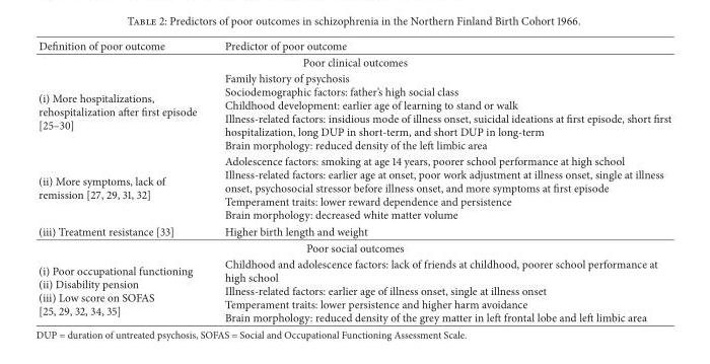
<table><thead><tr><td>Definition of poor outcome</td><td>Predictor of poor outcome</td></tr></thead><tbody><tr><td colspan="2">Poor clinical outcomes</td></tr><tr><td>(i) More hospitalizations, rehospitalization after first episode [25–30]</td><td>Family history of psychosis Sociodemographic factors: father’s high social class Childhood development: earlier age of learning to stand or walk Illness-related factors: insidious mode of illness onset, suicidal ideations at first episode, short first hospitalization, long DUP in short-term, and short DUP in long-term Brain morphology: reduced density of the left limbic area</td></tr><tr><td>(ii) More symptoms, lack of remission [27, 29, 31, 32]</td><td>Adolescence factors: smoking at age 14 years, poorer school performance at high school Illness-related factors: earlier age at onset, poor work adjustment at illness onset, single at illness onset, psychosocial stressor before illness onset, and more symptoms at first episode Temperament traits: lower reward dependence and persistence Brain morphology: decreased white matter volume</td></tr><tr><td>(iii) Treatment resistance [33]</td><td>Higher birth length and weight</td></tr><tr><td colspan="2">Poor social outcomes</td></tr><tr><td>(i) Poor occupational functioning (ii) Disability pension (iii) Low score on SOFAS [25, 29, 32, 34, 35]</td><td>Childhood and adolescence factors: lack of friends at childhood, poorer school performance at high school Illness-related factors: earlier age of illness onset, single at illness onset Temperament traits: lower persistence and higher harm avoidance Brain morphology: reduced density of the grey matter in left frontal lobe and left limbic area</td></tr></tbody></table>